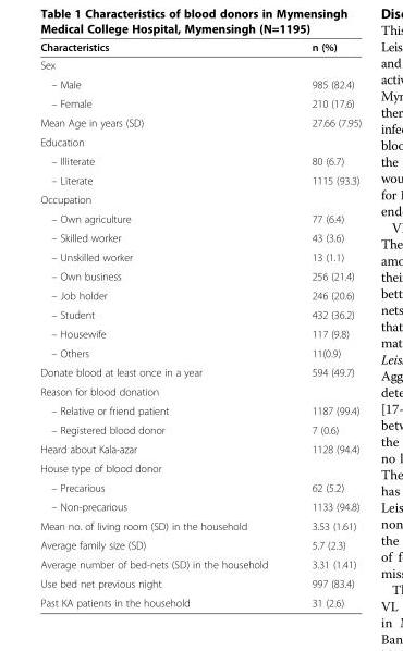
<table><thead><tr><td>Characteristics</td><td>n (%)</td></tr></thead><tbody><tr><td colspan="2">Sex</td></tr><tr><td>– Male</td><td>985 (82.4)</td></tr><tr><td>– Female</td><td>210 (17.6)</td></tr><tr><td>Mean Age in years (SD)</td><td>27.66 (7.95)</td></tr><tr><td colspan="2">Education</td></tr><tr><td>– Illiterate</td><td>80 (6.7)</td></tr><tr><td>– Literate</td><td>1115 (93.3)</td></tr><tr><td colspan="2">Occupation</td></tr><tr><td>– Own agriculture</td><td>77 (6.4)</td></tr><tr><td>– Skilled worker</td><td>43 (3.6)</td></tr><tr><td>– Unskilled worker</td><td>13 (1.1)</td></tr><tr><td>– Own business</td><td>256 (21.4)</td></tr><tr><td>– Job holder</td><td>246 (20.6)</td></tr><tr><td>– Student</td><td>432 (36.2)</td></tr><tr><td>– Housewife</td><td>117 (9.8)</td></tr><tr><td>– Others</td><td>11(0.9)</td></tr><tr><td>Donate blood at least once in a year</td><td>594 (49.7)</td></tr><tr><td colspan="2">Reason for blood donation</td></tr><tr><td>– Relative or friend patient</td><td>1187 (99.4)</td></tr><tr><td>– Registered blood donor</td><td>7 (0.6)</td></tr><tr><td>Heard about Kala-azar</td><td>1128 (94.4)</td></tr><tr><td colspan="2">House type of blood donor</td></tr><tr><td>– Precarious</td><td>62 (5.2)</td></tr><tr><td>– Non-precarious</td><td>1133 (94.8)</td></tr><tr><td>Mean no. of living room (SD) in the household</td><td>3.53 (1.61)</td></tr><tr><td>Average family size (SD)</td><td>5.7 (2.3)</td></tr><tr><td>Average number of bed-nets (SD) in the household</td><td>3.31 (1.41)</td></tr><tr><td>Use bed net previous night</td><td>997 (83.4)</td></tr><tr><td>Past KA patients in the household</td><td>31 (2.6)</td></tr></tbody></table>